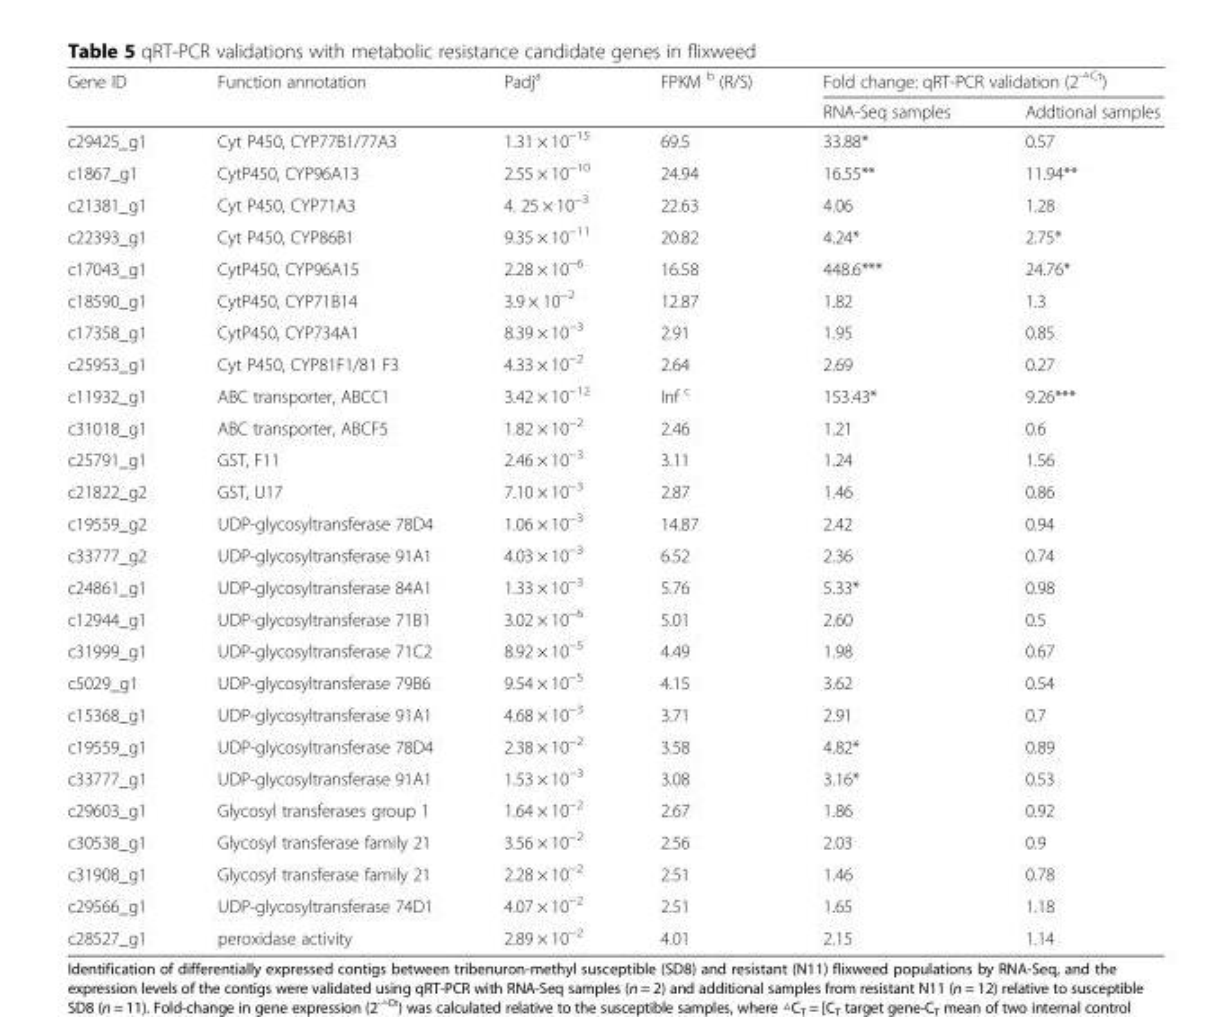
<table><thead><tr><td rowspan="2">Gene ID</td><td rowspan="2">Function annotation</td><td rowspan="2">Padj<sup>a</sup></td><td rowspan="2">FPKM <sup>b</sup> (R/S)</td><td colspan="2">Fold change: qRT-PCR validation (2<sup>-△Ct</sup>)</td></tr><tr><td>RNA-Seq samples</td><td>Addtional samples</td></tr></thead><tbody><tr><td>c29425_g1</td><td>Cyt P450, CYP77B1/77A3</td><td>1.31 × 10<sup>−15</sup></td><td>69.5</td><td>33.88*</td><td>0.57</td></tr><tr><td>c1867_g1</td><td>CytP450, CYP96A13</td><td>2.55 × 10<sup>−10</sup></td><td>24.94</td><td>16.55**</td><td>11.94**</td></tr><tr><td>c21381_g1</td><td>Cyt P450, CYP71A3</td><td>4. 25 × 10<sup>−3</sup></td><td>22.63</td><td>4.06</td><td>1.28</td></tr><tr><td>c22393_g1</td><td>Cyt P450, CYP86B1</td><td>9.35 × 10<sup>−11</sup></td><td>20.82</td><td>4.24*</td><td>2.75*</td></tr><tr><td>c17043_g1</td><td>CytP450, CYP96A15</td><td>2.28 × 10<sup>−6</sup></td><td>16.58</td><td>448.6***</td><td>24.76*</td></tr><tr><td>c18590_g1</td><td>CytP450, CYP71B14</td><td>3.9 × 10<sup>−2</sup></td><td>12.87</td><td>1.82</td><td>1.3</td></tr><tr><td>c17358_g1</td><td>CytP450, CYP734A1</td><td>8.39 × 10<sup>−3</sup></td><td>2.91</td><td>1.95</td><td>0.85</td></tr><tr><td>c25953_g1</td><td>Cyt P450, CYP81F1/81 F3</td><td>4.33 × 10<sup>−2</sup></td><td>2.64</td><td>2.69</td><td>0.27</td></tr><tr><td>c11932_g1</td><td>ABC transporter, ABCC1</td><td>3.42 × 10<sup>−12</sup></td><td>Inf <sup>c</sup></td><td>153.43*</td><td>9.26***</td></tr><tr><td>c31018_g1</td><td>ABC transporter, ABCF5</td><td>1.82 × 10<sup>−2</sup></td><td>2.46</td><td>1.21</td><td>0.6</td></tr><tr><td>c25791_g1</td><td>GST, F11</td><td>2.46 × 10<sup>−3</sup></td><td>3.11</td><td>1.24</td><td>1.56</td></tr><tr><td>c21822_g2</td><td>GST, U17</td><td>7.10 × 10<sup>−3</sup></td><td>2.87</td><td>1.46</td><td>0.86</td></tr><tr><td>c19559_g2</td><td>UDP-glycosyltransferase 78D4</td><td>1.06 × 10<sup>−3</sup></td><td>14.87</td><td>2.42</td><td>0.94</td></tr><tr><td>c33777_g2</td><td>UDP-glycosyltransferase 91A1</td><td>4.03 × 10<sup>−3</sup></td><td>6.52</td><td>2.36</td><td>0.74</td></tr><tr><td>c24861_g1</td><td>UDP-glycosyltransferase 84A1</td><td>1.33 × 10<sup>−3</sup></td><td>5.76</td><td>5.33*</td><td>0.98</td></tr><tr><td>c12944_g1</td><td>UDP-glycosyltransferase 71B1</td><td>3.02 × 10<sup>−6</sup></td><td>5.01</td><td>2.60</td><td>0.5</td></tr><tr><td>c31999_g1</td><td>UDP-glycosyltransferase 71C2</td><td>8.92 × 10<sup>−5</sup></td><td>4.49</td><td>1.98</td><td>0.67</td></tr><tr><td>c5029_g1</td><td>UDP-glycosyltransferase 79B6</td><td>9.54 × 10<sup>−5</sup></td><td>4.15</td><td>3.62</td><td>0.54</td></tr><tr><td>c15368_g1</td><td>UDP-glycosyltransferase 91A1</td><td>4.68 × 10<sup>−3</sup></td><td>3.71</td><td>2.91</td><td>0.7</td></tr><tr><td>c19559_g1</td><td>UDP-glycosyltransferase 78D4</td><td>2.38 × 10<sup>−2</sup></td><td>3.58</td><td>4.82*</td><td>0.89</td></tr><tr><td>c33777_g1</td><td>UDP-glycosyltransferase 91A1</td><td>1.53 × 10<sup>−3</sup></td><td>3.08</td><td>3.16*</td><td>0.53</td></tr><tr><td>c29603_g1</td><td>Glycosyl transferases group 1</td><td>1.64 × 10<sup>−2</sup></td><td>2.67</td><td>1.86</td><td>0.92</td></tr><tr><td>c30538_g1</td><td>Glycosyl transferase family 21</td><td>3.56 × 10<sup>−2</sup></td><td>2.56</td><td>2.03</td><td>0.9</td></tr><tr><td>c31908_g1</td><td>Glycosyl transferase family 21</td><td>2.28 × 10<sup>−2</sup></td><td>2.51</td><td>1.46</td><td>0.78</td></tr><tr><td>c29566_g1</td><td>UDP-glycosyltransferase 74D1</td><td>4.07 × 10<sup>−2</sup></td><td>2.51</td><td>1.65</td><td>1.18</td></tr><tr><td>c28527_g1</td><td>peroxidase activity</td><td>2.89 × 10<sup>−2</sup></td><td>4.01</td><td>2.15</td><td>1.14</td></tr></tbody></table>